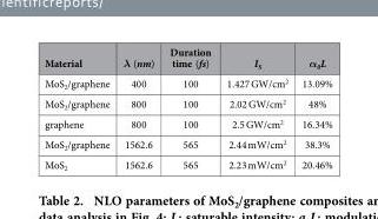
<table><thead><tr><td>Material</td><td>λ (nm)</td><td>Duration time (fs)</td><td>I<sub>S</sub></td><td>α<sub>0</sub>L</td></tr></thead><tbody><tr><td>MoS<sub>2</sub>/graphene</td><td>400</td><td>100</td><td>1.427 GW/cm<sup>2</sup></td><td>13.09%</td></tr><tr><td>MoS<sub>2</sub>/graphene</td><td>800</td><td>100</td><td>2.02 GW/cm<sup>2</sup></td><td>48%</td></tr><tr><td>graphene</td><td>800</td><td>100</td><td>2.5 GW/cm<sup>2</sup></td><td>16.34%</td></tr><tr><td>MoS<sub>2</sub>/graphene</td><td>1562.6</td><td>565</td><td>2.44 mW/cm<sup>2</sup></td><td>38.3%</td></tr><tr><td>MoS<sub>2</sub></td><td>1562.6</td><td>565</td><td>2.23 mW/cm<sup>2</sup></td><td>20.46%</td></tr></tbody></table>